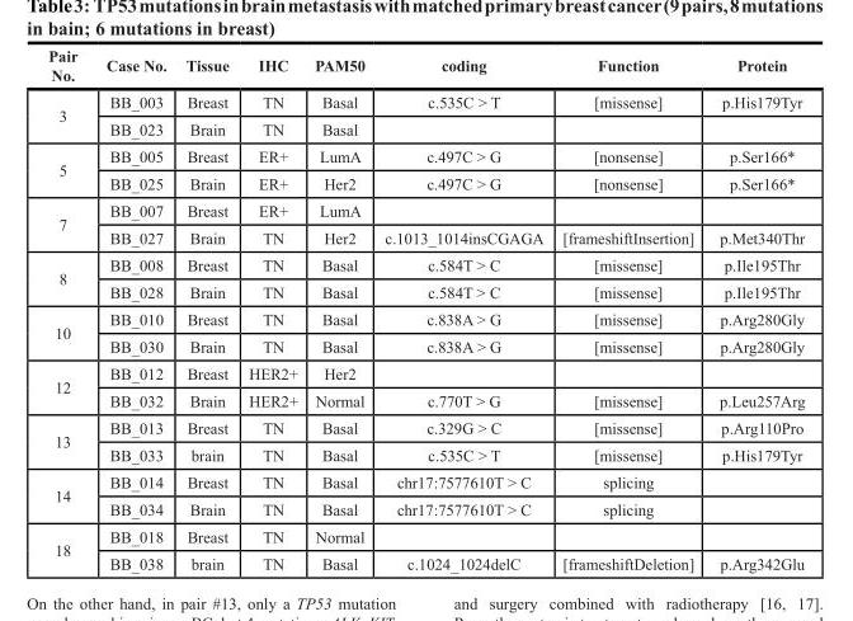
<table><thead><tr><td>Pair No.</td><td>Case No.</td><td>Tissue</td><td>IHC</td><td>PAM50</td><td>coding</td><td>Function</td><td>Protein</td></tr></thead><tbody><tr><td rowspan="2">3</td><td>BB_003</td><td>Breast</td><td>TN</td><td>Basal</td><td>c.535C &gt; T</td><td>[missense]</td><td>p.His179Tyr</td></tr><tr><td>BB_023</td><td>Brain</td><td>TN</td><td>Basal</td><td></td><td></td><td></td></tr><tr><td rowspan="2">5</td><td>BB_005</td><td>Breast</td><td>ER+</td><td>LumA</td><td>c.497C &gt; G</td><td>[nonsense]</td><td>p.Ser166*</td></tr><tr><td>BB_025</td><td>Brain</td><td>ER+</td><td>Her2</td><td>c.497C &gt; G</td><td>[nonsense]</td><td>p.Ser166*</td></tr><tr><td rowspan="2">7</td><td>BB_007</td><td>Breast</td><td>ER+</td><td>LumA</td><td></td><td></td><td></td></tr><tr><td>BB_027</td><td>Brain</td><td>TN</td><td>Her2</td><td>c.1013_1014insCGAGA</td><td>[frameshiftInsertion]</td><td>p.Met340Thr</td></tr><tr><td rowspan="2">8</td><td>BB_008</td><td>Breast</td><td>TN</td><td>Basal</td><td>c.584T &gt; C</td><td>[missense]</td><td>p.Ile195Thr</td></tr><tr><td>BB_028</td><td>Brain</td><td>TN</td><td>Basal</td><td>c.584T &gt; C</td><td>[missense]</td><td>p.Ile195Thr</td></tr><tr><td rowspan="2">10</td><td>BB_010</td><td>Breast</td><td>TN</td><td>Basal</td><td>c.838A &gt; G</td><td>[missense]</td><td>p.Arg280Gly</td></tr><tr><td>BB_030</td><td>Brain</td><td>TN</td><td>Basal</td><td>c.838A &gt; G</td><td>[missense]</td><td>p.Arg280Gly</td></tr><tr><td rowspan="2">12</td><td>BB_012</td><td>Breast</td><td>HER2+</td><td>Her2</td><td></td><td></td><td></td></tr><tr><td>BB_032</td><td>Brain</td><td>HER2+</td><td>Normal</td><td>c.770T &gt; G</td><td>[missense]</td><td>p.Leu257Arg</td></tr><tr><td rowspan="2">13</td><td>BB_013</td><td>Breast</td><td>TN</td><td>Basal</td><td>c.329G &gt; C</td><td>[missense]</td><td>p.Arg110Pro</td></tr><tr><td>BB_033</td><td>brain</td><td>TN</td><td>Basal</td><td>c.535C &gt; T</td><td>[missense]</td><td>p.His179Tyr</td></tr><tr><td rowspan="2">14</td><td>BB_014</td><td>Breast</td><td>TN</td><td>Basal</td><td>chr17:7577610T &gt; C</td><td>splicing</td><td></td></tr><tr><td>BB_034</td><td>Brain</td><td>TN</td><td>Basal</td><td>chr17:7577610T &gt; C</td><td>splicing</td><td></td></tr><tr><td rowspan="2">18</td><td>BB_018</td><td>Breast</td><td>TN</td><td>Normal</td><td></td><td></td><td></td></tr><tr><td>BB_038</td><td>brain</td><td>TN</td><td>Basal</td><td>c.1024_1024delC</td><td>[frameshiftDeletion]</td><td>p.Arg342Glu</td></tr></tbody></table>